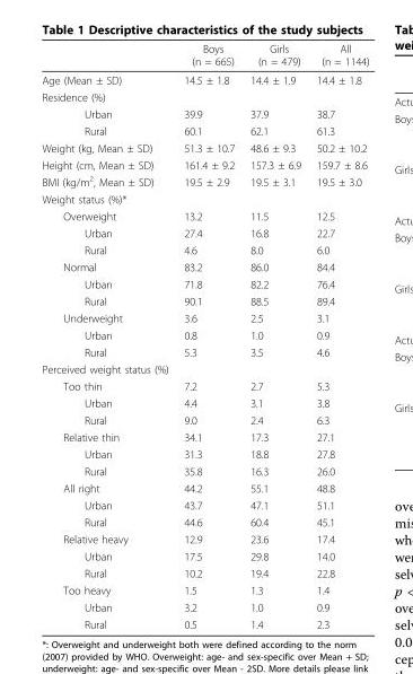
<table><thead><tr><td></td><td>Boys (n = 665)</td><td>Girls (n = 479)</td><td>All (n = 1144)</td></tr></thead><tbody><tr><td>Age (Mean ± SD)</td><td>14.5 ± 1.8</td><td>14.4 ± 1.9</td><td>14.4 ± 1.8</td></tr><tr><td colspan="4">Residence (%)</td></tr><tr><td>Urban</td><td>39.9</td><td>37.9</td><td>38.7</td></tr><tr><td>Rural</td><td>60.1</td><td>62.1</td><td>61.3</td></tr><tr><td>Weight (kg, Mean ± SD)</td><td>51.3 ± 10.7</td><td>48.6 ± 9.3</td><td>50.2 ± 10.2</td></tr><tr><td>Height (cm, Mean ± SD)</td><td>161.4 ± 9.2</td><td>157.3 ± 6.9</td><td>159.7 ± 8.6</td></tr><tr><td>BMI (kg/m<sup>2</sup>, Mean ± SD)</td><td>19.5 ± 2.9</td><td>19.5 ± 3.1</td><td>19.5 ± 3.0</td></tr><tr><td colspan="4">Weight status (%)*</td></tr><tr><td>Overweight</td><td>13.2</td><td>11.5</td><td>12.5</td></tr><tr><td>Urban</td><td>27.4</td><td>16.8</td><td>22.7</td></tr><tr><td>Rural</td><td>4.6</td><td>8.0</td><td>6.0</td></tr><tr><td>Normal</td><td>83.2</td><td>86.0</td><td>84.4</td></tr><tr><td>Urban</td><td>71.8</td><td>82.2</td><td>76.4</td></tr><tr><td>Rural</td><td>90.1</td><td>88.5</td><td>89.4</td></tr><tr><td>Underweight</td><td>3.6</td><td>2.5</td><td>3.1</td></tr><tr><td>Urban</td><td>0.8</td><td>1.0</td><td>0.9</td></tr><tr><td>Rural</td><td>5.3</td><td>3.5</td><td>4.6</td></tr><tr><td colspan="4">Perceived weight status (%)</td></tr><tr><td>Too thin</td><td>7.2</td><td>2.7</td><td>5.3</td></tr><tr><td>Urban</td><td>4.4</td><td>3.1</td><td>3.8</td></tr><tr><td>Rural</td><td>9.0</td><td>2.4</td><td>6.3</td></tr><tr><td>Relative thin</td><td>34.1</td><td>17.3</td><td>27.1</td></tr><tr><td>Urban</td><td>31.3</td><td>18.8</td><td>27.8</td></tr><tr><td>Rural</td><td>35.8</td><td>16.3</td><td>26.0</td></tr><tr><td>All right</td><td>44.2</td><td>55.1</td><td>48.8</td></tr><tr><td>Urban</td><td>43.7</td><td>47.1</td><td>51.1</td></tr><tr><td>Rural</td><td>44.6</td><td>60.4</td><td>45.1</td></tr><tr><td>Relative heavy</td><td>12.9</td><td>23.6</td><td>17.4</td></tr><tr><td>Urban</td><td>17.5</td><td>29.8</td><td>14.0</td></tr><tr><td>Rural</td><td>10.2</td><td>19.4</td><td>22.8</td></tr><tr><td>Too heavy</td><td>1.5</td><td>1.3</td><td>1.4</td></tr><tr><td>Urban</td><td>3.2</td><td>1.0</td><td>0.9</td></tr><tr><td>Rural</td><td>0.5</td><td>1.4</td><td>2.3</td></tr></tbody></table>